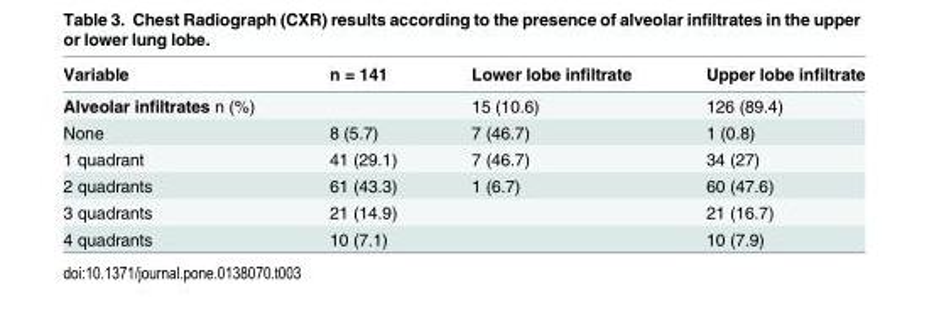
<table><thead><tr><td>Variable</td><td>n = 141</td><td>Lower lobe infiltrate</td><td>Upper lobe infiltrate</td></tr></thead><tbody><tr><td>Alveolar infiltrates n (%)</td><td></td><td>15 (10.6)</td><td>126 (89.4)</td></tr><tr><td>None</td><td>8 (5.7)</td><td>7 (46.7)</td><td>1 (0.8)</td></tr><tr><td>1 quadrant</td><td>41 (29.1)</td><td>7 (46.7)</td><td>34 (27)</td></tr><tr><td>2 quadrants</td><td>61 (43.3)</td><td>1 (6.7)</td><td>60 (47.6)</td></tr><tr><td>3 quadrants</td><td>21 (14.9)</td><td></td><td>21 (16.7)</td></tr><tr><td>4 quadrants</td><td>10 (7.1)</td><td></td><td>10 (7.9)</td></tr></tbody></table>